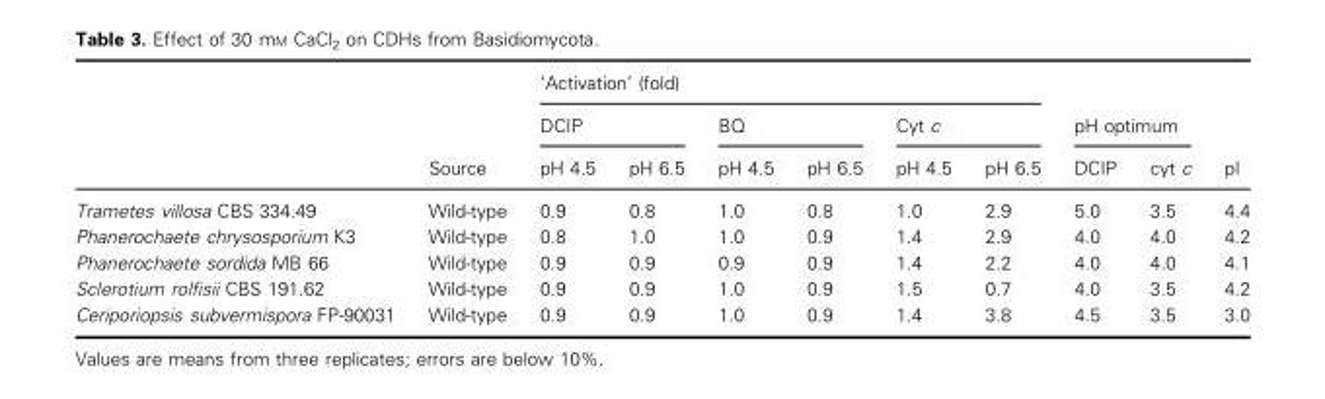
<table><thead><tr><td rowspan="3"></td><td rowspan="3">Source</td><td colspan="9">‘Activation’ (fold)</td></tr><tr><td colspan="2">DCIP</td><td colspan="2">BQ</td><td colspan="2">Cyt c</td><td colspan="3">pH optimum</td></tr><tr><td>pH 4.5</td><td>pH 6.5</td><td>pH 4.5</td><td>pH 6.5</td><td>pH 4.5</td><td>pH 6.5</td><td>DCIP</td><td>cyt c</td><td>pI</td></tr></thead><tbody><tr><td>Trametes villosa CBS 334.49</td><td>Wild-type</td><td>0.9</td><td>0.8</td><td>1.0</td><td>0.8</td><td>1.0</td><td>2.9</td><td>5.0</td><td>3.5</td><td>4.4</td></tr><tr><td>Phanerochaete chrysosporium K3</td><td>Wild-type</td><td>0.8</td><td>1.0</td><td>1.0</td><td>0.9</td><td>1.4</td><td>2.9</td><td>4.0</td><td>4.0</td><td>4.2</td></tr><tr><td>Phanerochaete sordida MB 66</td><td>Wild-type</td><td>0.9</td><td>0.9</td><td>0.9</td><td>0.9</td><td>1.4</td><td>2.2</td><td>4.0</td><td>4.0</td><td>4.1</td></tr><tr><td>Sclerotium rolfisii CBS 191.62</td><td>Wild-type</td><td>0.9</td><td>0.9</td><td>1.0</td><td>0.9</td><td>1.5</td><td>0.7</td><td>4.0</td><td>3.5</td><td>4.2</td></tr><tr><td>Ceriporiopsis subvermispora FP-90031</td><td>Wild-type</td><td>0.9</td><td>0.9</td><td>1.0</td><td>0.9</td><td>1.4</td><td>3.8</td><td>4.5</td><td>3.5</td><td>3.0</td></tr></tbody></table>